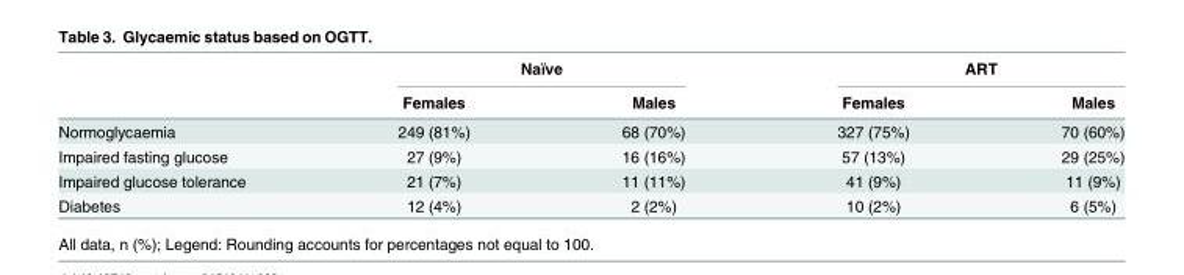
<table><thead><tr><td rowspan="2"></td><td colspan="2">Naïve</td><td colspan="2">ART</td></tr><tr><td>Females</td><td>Males</td><td>Females</td><td>Males</td></tr></thead><tbody><tr><td>Normoglycaemia</td><td>249 (81%)</td><td>68 (70%)</td><td>327 (75%)</td><td>70 (60%)</td></tr><tr><td>Impaired fasting glucose</td><td>27 (9%)</td><td>16 (16%)</td><td>57 (13%)</td><td>29 (25%)</td></tr><tr><td>Impaired glucose tolerance</td><td>21 (7%)</td><td>11 (11%)</td><td>41 (9%)</td><td>11 (9%)</td></tr><tr><td>Diabetes</td><td>12 (4%)</td><td>2 (2%)</td><td>10 (2%)</td><td>6 (5%)</td></tr></tbody></table>